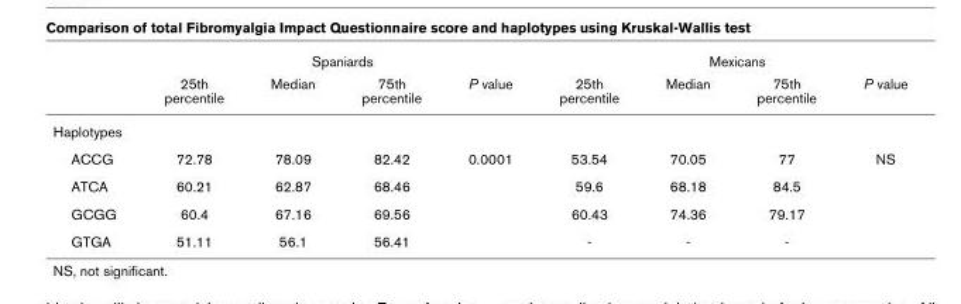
<table><thead><tr><td rowspan="2"></td><td colspan="4">Spaniards</td><td colspan="4">Mexicans</td></tr><tr><td>25th percentile</td><td>Median</td><td>75th percentile</td><td>P value</td><td>25th percentile</td><td>Median</td><td>75th percentile</td><td>P value</td></tr></thead><tbody><tr><td colspan="9">Haplotypes</td></tr><tr><td>ACCG</td><td>72.78</td><td>78.09</td><td>82.42</td><td>0.0001</td><td>53.54</td><td>70.05</td><td>77</td><td>NS</td></tr><tr><td>ATCA</td><td>60.21</td><td>62.87</td><td>68.46</td><td></td><td>59.6</td><td>68.18</td><td>84.5</td><td></td></tr><tr><td>GCGG</td><td>60.4</td><td>67.16</td><td>69.56</td><td></td><td>60.43</td><td>74.36</td><td>79.17</td><td></td></tr><tr><td>GTGA</td><td>51.11</td><td>56.1</td><td>56.41</td><td></td><td>-</td><td>-</td><td>-</td><td></td></tr></tbody></table>